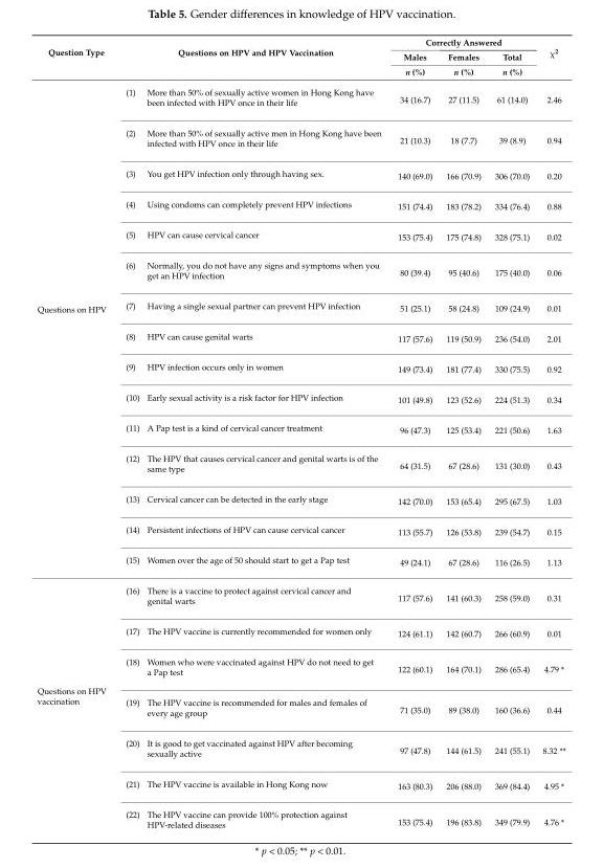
<table><thead><tr><td rowspan="3">Question Type</td><td rowspan="3">Questions on HPV and HPV Vaccination</td><td colspan="3">Correctly Answered</td><td rowspan="3">χ<sup>2</sup></td></tr><tr><td rowspan="2">Males n (%)</td><td rowspan="2">Females n (%)</td><td rowspan="2">Total n (%)</td></tr><tr></tr></thead><tbody><tr><td rowspan="15">Questions on HPV</td><td>(1) More than 50% of sexually active women in Hong Kong have been infected with HPV once in their life</td><td>34 (16.7)</td><td>27 (11.5)</td><td>61 (14.0)</td><td>2.46</td></tr><tr><td>(2) More than 50% of sexually active men in Hong Kong have been infected with HPV once in their life</td><td>21 (10.3)</td><td>18 (7.7)</td><td>39 (8.9)</td><td>0.94</td></tr><tr><td>(3) You get HPV infection only through having sex.</td><td>140 (69.0)</td><td>166 (70.9)</td><td>306 (70.0)</td><td>0.20</td></tr><tr><td>(4) Using condoms can completely prevent HPV infections</td><td>151 (74.4)</td><td>183 (78.2)</td><td>334 (76.4)</td><td>0.88</td></tr><tr><td>(5) HPV can cause cervical cancer</td><td>153 (75.4)</td><td>175 (74.8)</td><td>328 (75.1)</td><td>0.02</td></tr><tr><td>(6) Normally, you do not have any signs and symptoms when you get an HPV infection</td><td>80 (39.4)</td><td>95 (40.6)</td><td>175 (40.0)</td><td>0.06</td></tr><tr><td>(7) Having a single sexual partner can prevent HPV infection</td><td>51 (25.1)</td><td>58 (24.8)</td><td>109 (24.9)</td><td>0.01</td></tr><tr><td>(8) HPV can cause genital warts</td><td>117 (57.6)</td><td>119 (50.9)</td><td>236 (54.0)</td><td>2.01</td></tr><tr><td>(9) HPV infection occurs only in women</td><td>149 (73.4)</td><td>181 (77.4)</td><td>330 (75.5)</td><td>0.92</td></tr><tr><td>(10) Early sexual activity is a risk factor for HPV infection</td><td>101 (49.8)</td><td>123 (52.6)</td><td>224 (51.3)</td><td>0.34</td></tr><tr><td>(11) A Pap test is a kind of cervical cancer treatment</td><td>96 (47.3)</td><td>125 (53.4)</td><td>221 (50.6)</td><td>1.63</td></tr><tr><td>(12) The HPV that causes cervical cancer and genital warts is of the same type</td><td>64 (31.5)</td><td>67 (28.6)</td><td>131 (30.0)</td><td>0.43</td></tr><tr><td>(13) Cervical cancer can be detected in the early stage</td><td>142 (70.0)</td><td>153 (65.4)</td><td>295 (67.5)</td><td>1.03</td></tr><tr><td>(14) Persistent infections of HPV can cause cervical cancer</td><td>113 (55.7)</td><td>126 (53.8)</td><td>239 (54.7)</td><td>0.15</td></tr><tr><td>(15) Women over the age of 50 should start to get a Pap test</td><td>49 (24.1)</td><td>67 (28.6)</td><td>116 (26.5)</td><td>1.13</td></tr><tr><td rowspan="7">Questions on HPV vaccination</td><td>(16) There is a vaccine to protect against cervical cancer and genital warts</td><td>117 (57.6)</td><td>141 (60.3)</td><td>258 (59.0)</td><td>0.31</td></tr><tr><td>(17) The HPV vaccine is currently recommended for women only</td><td>124 (61.1)</td><td>142 (60.7)</td><td>266 (60.9)</td><td>0.01</td></tr><tr><td>(18) Women who were vaccinated against HPV do not need to get a Pap test</td><td>122 (60.1)</td><td>164 (70.1)</td><td>286 (65.4)</td><td>4.79 *</td></tr><tr><td>(19) The HPV vaccine is recommended for males and females of every age group</td><td>71 (35.0)</td><td>89 (38.0)</td><td>160 (36.6)</td><td>0.44</td></tr><tr><td>(20) It is good to get vaccinated against HPV after becoming sexually active</td><td>97 (47.8)</td><td>144 (61.5)</td><td>241 (55.1)</td><td>8.32 **</td></tr><tr><td>(21) The HPV vaccine is available in Hong Kong now</td><td>163 (80.3)</td><td>206 (88.0)</td><td>369 (84.4)</td><td>4.95 *</td></tr><tr><td>(22) The HPV vaccine can provide 100% protection against HPV-related diseases</td><td>153 (75.4)</td><td>196 (83.8)</td><td>349 (79.9)</td><td>4.76 *</td></tr></tbody></table>